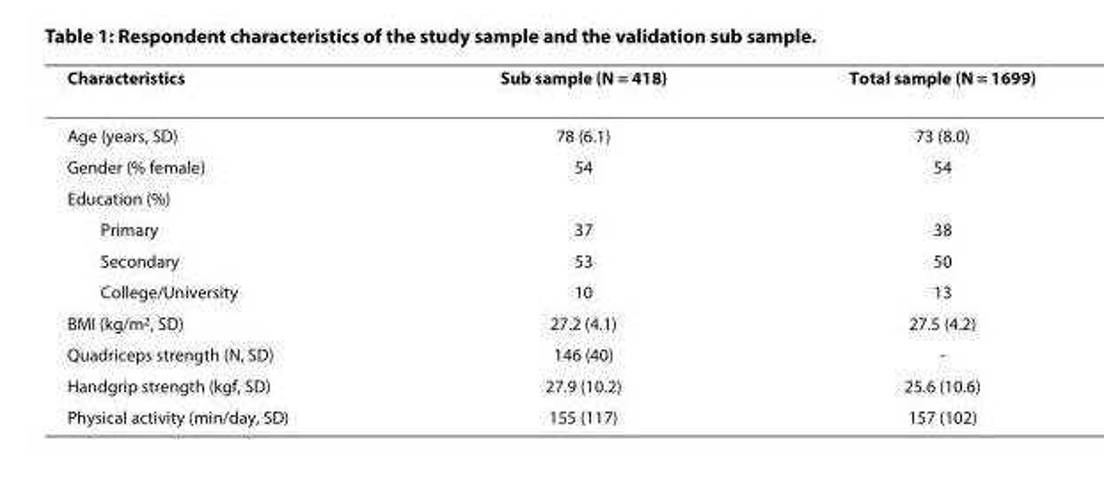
<table><thead><tr><td>Characteristics</td><td>Sub sample (N = 418)</td><td>Total sample (N = 1699)</td></tr></thead><tbody><tr><td>Age (years, SD)</td><td>78 (6.1)</td><td>73 (8.0)</td></tr><tr><td>Gender (% female)</td><td>54</td><td>54</td></tr><tr><td colspan="3">Education (%)</td></tr><tr><td>Primary</td><td>37</td><td>38</td></tr><tr><td>Secondary</td><td>53</td><td>50</td></tr><tr><td>College/University</td><td>10</td><td>13</td></tr><tr><td>BMI (kg/m<sup>2</sup>, SD)</td><td>27.2 (4.1)</td><td>27.5 (4.2)</td></tr><tr><td>Quadriceps strength (N, SD)</td><td>146 (40)</td><td>-</td></tr><tr><td>Handgrip strength (kgf, SD)</td><td>27.9 (10.2)</td><td>25.6 (10.6)</td></tr><tr><td>Physical activity (min/day, SD)</td><td>155 (117)</td><td>157 (102)</td></tr></tbody></table>